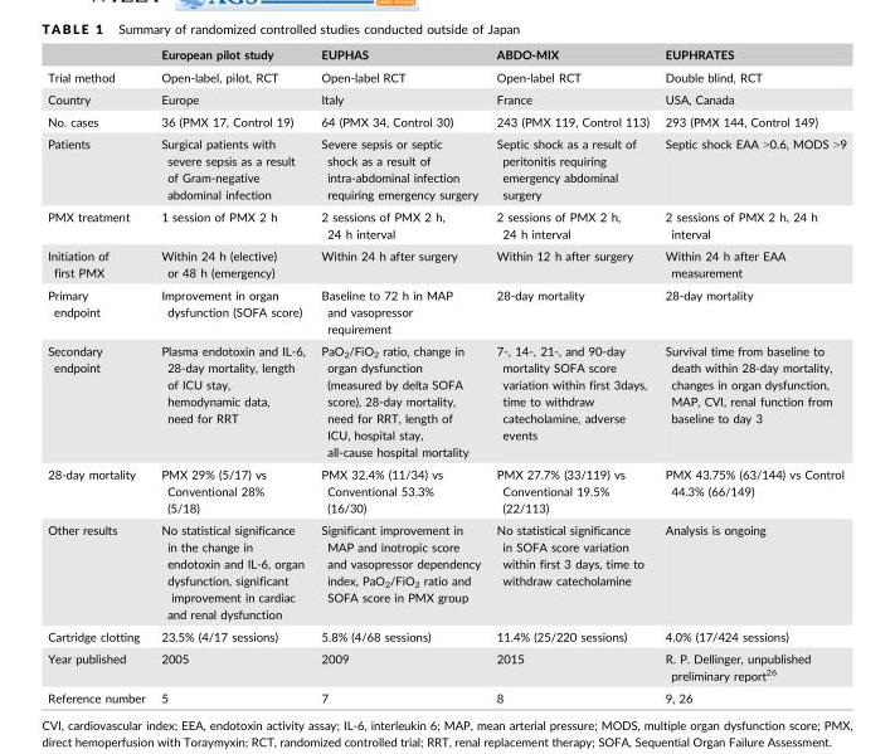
<table><thead><tr><td></td><td>European pilot study</td><td>EUPHAS</td><td>ABDO-MIX</td><td>EUPHRATES</td></tr></thead><tbody><tr><td>Trial method</td><td>Open-label, pilot, RCT</td><td>Open-label RCT</td><td>Open-label RCT</td><td>Double blind, RCT</td></tr><tr><td>Country</td><td>Europe</td><td>Italy</td><td>France</td><td>USA, Canada</td></tr><tr><td>No. cases</td><td>36 (PMX 17, Control 19)</td><td>64 (PMX 34, Control 30)</td><td>243 (PMX 119, Control 113)</td><td>293 (PMX 144, Control 149)</td></tr><tr><td>Patients</td><td>Surgical patients with severe sepsis as a result of Gram-negative abdominal infection</td><td>Severe sepsis or septic shock as a result of intra-abdominal infection requiring emergency surgery</td><td>Septic shock as a result of peritonitis requiring emergency abdominal surgery</td><td>Septic shock EAA &gt;0.6, MODS &gt;9</td></tr><tr><td>PMX treatment</td><td>1 session of PMX 2 h</td><td>2 sessions of PMX 2 h, 24 h interval</td><td>2 sessions of PMX 2 h, 24 h interval</td><td>2 sessions of PMX 2 h, 24 h interval</td></tr><tr><td>Initiation of first PMX</td><td>Within 24 h (elective) or 48 h (emergency)</td><td>Within 24 h after surgery</td><td>Within 12 h after surgery</td><td>Within 24 h after EAA measurement</td></tr><tr><td>Primary endpoint</td><td>Improvement in organ dysfunction (SOFA score)</td><td>Baseline to 72 h in MAP and vasopressor requirement</td><td>28-day mortality</td><td>28-day mortality</td></tr><tr><td>Secondary endpoint</td><td>Plasma endotoxin and IL-6, 28-day mortality, length of ICU stay, hemodynamic data, need for RRT</td><td>PaO<sub>2</sub>/FiO<sub>2</sub> ratio, change in organ dysfunction (measured by delta SOFA score), 28-day mortality, need for RRT, length of ICU, hospital stay, all-cause hospital mortality</td><td>7-, 14-, 21-, and 90-day mortality SOFA score variation within first 3days, time to withdraw catecholamine, adverse events</td><td>Survival time from baseline to death within 28-day mortality, changes in organ dysfunction, MAP, CVI, renal function from baseline to day 3</td></tr><tr><td>28-day mortality</td><td>PMX 29% (5/17) vs Conventional 28% (5/18)</td><td>PMX 32.4% (11/34) vs Conventional 53.3% (16/30)</td><td>PMX 27.7% (33/119) vs Conventional 19.5% (22/113)</td><td>PMX 43.75% (63/144) vs Control 44.3% (66/149)</td></tr><tr><td>Other results</td><td>No statistical significance in the change in endotoxin and IL-6, organ dysfunction, significant improvement in cardiac and renal dysfunction</td><td>Significant improvement in MAP and inotropic score and vasopressor dependency index, PaO<sub>2</sub>/FiO<sub>2</sub> ratio and SOFA score in PMX group</td><td>No statistical significance in SOFA score variation within first 3 days, time to withdraw catecholamine</td><td>Analysis is ongoing</td></tr><tr><td>Cartridge clotting</td><td>23.5% (4/17 sessions)</td><td>5.8% (4/68 sessions)</td><td>11.4% (25/220 sessions)</td><td>4.0% (17/424 sessions)</td></tr><tr><td>Year published</td><td>2005</td><td>2009</td><td>2015</td><td>R. P. Dellinger, unpublished preliminary report<sup>26</sup></td></tr><tr><td>Reference number</td><td>5</td><td>7</td><td>8</td><td>9, 26</td></tr></tbody></table>